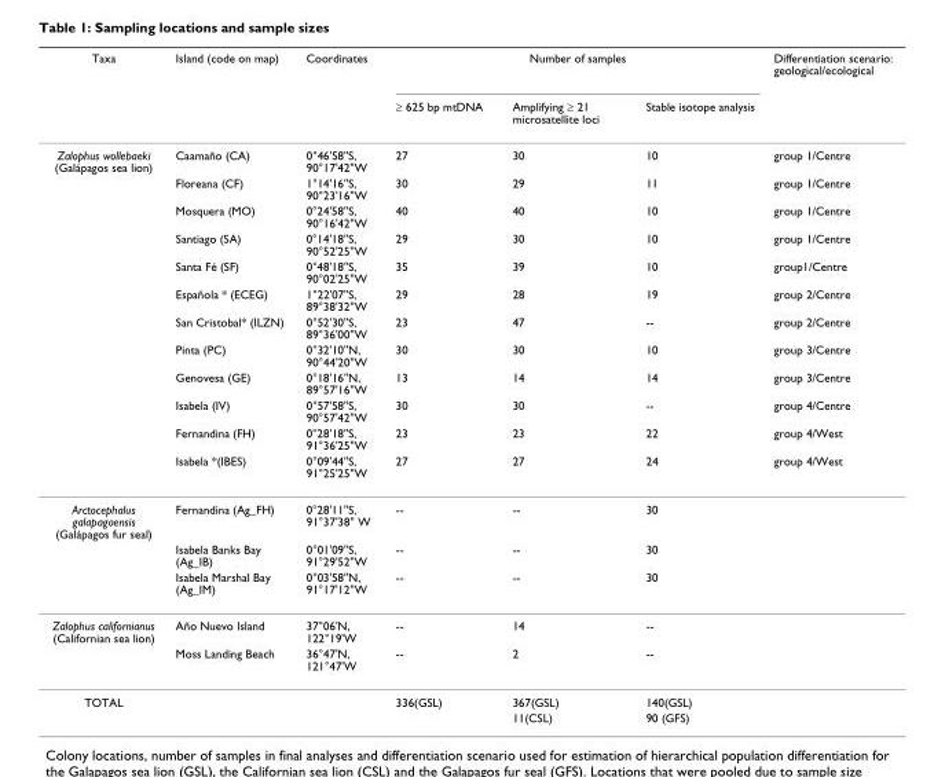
<table><thead><tr><td rowspan="2">Taxa</td><td rowspan="2">Island (code on map)</td><td rowspan="2">Coordinates</td><td colspan="3">Number of samples</td><td rowspan="2">Differentiation scenario: geological/ecological</td></tr><tr><td>≥ 625 bp mtDNA</td><td>Amplifying ≥ 21 microsatellite loci</td><td>Stable isotope analysis</td></tr></thead><tbody><tr><td rowspan="12">Zalophus wollebaeki (Galápagos sea lion)</td><td>Caamaño (CA)</td><td>0°46&#x27;58&#x27;&#x27;S, 90°17&#x27;42&#x27;&#x27;W</td><td>27</td><td>30</td><td>10</td><td>group 1/Centre</td></tr><tr><td>Floreana (CF)</td><td>1°14&#x27;16&#x27;&#x27;S, 90°23&#x27;16&#x27;&#x27;W</td><td>30</td><td>29</td><td>11</td><td>group 1/Centre</td></tr><tr><td>Mosquera (MO)</td><td>0°24&#x27;58&#x27;&#x27;S, 90°16&#x27;42&#x27;&#x27;W</td><td>40</td><td>40</td><td>10</td><td>group 1/Centre</td></tr><tr><td>Santiago (SA)</td><td>0°14&#x27;18&#x27;&#x27;S, 90°52&#x27;25&#x27;&#x27;W</td><td>29</td><td>30</td><td>10</td><td>group 1/Centre</td></tr><tr><td>Santa Fé (SF)</td><td>0°48&#x27;18&#x27;&#x27;S, 90°02&#x27;25&#x27;&#x27;W</td><td>35</td><td>39</td><td>10</td><td>group1/Centre</td></tr><tr><td>Española * (ECEG)</td><td>1°22&#x27;07&#x27;&#x27;S, 89°38&#x27;32&#x27;&#x27;W</td><td>29</td><td>28</td><td>19</td><td>group 2/Centre</td></tr><tr><td>San Cristobal* (ILZN)</td><td>0°52&#x27;30&#x27;&#x27;S, 89°36&#x27;00&#x27;&#x27;W</td><td>23</td><td>47</td><td>--</td><td>group 2/Centre</td></tr><tr><td>Pinta (PC)</td><td>0°32&#x27;10&#x27;&#x27;N, 90°44&#x27;20&#x27;&#x27;W</td><td>30</td><td>30</td><td>10</td><td>group 3/Centre</td></tr><tr><td>Genovesa (GE)</td><td>0°18&#x27;16&#x27;&#x27;N, 89°57&#x27;16&#x27;&#x27;W</td><td>13</td><td>14</td><td>14</td><td>group 3/Centre</td></tr><tr><td>Isabela (IV)</td><td>0°57&#x27;58&#x27;&#x27;S, 90°57&#x27;42&#x27;&#x27;W</td><td>30</td><td>30</td><td>--</td><td>group 4/Centre</td></tr><tr><td>Fernandina (FH)</td><td>0°28&#x27;18&#x27;&#x27;S, 91°36&#x27;25&#x27;&#x27;W</td><td>23</td><td>23</td><td>22</td><td>group 4/West</td></tr><tr><td>Isabela *(IBES)</td><td>0°09&#x27;44&#x27;&#x27;S, 91°25&#x27;25&#x27;&#x27;W</td><td>27</td><td>27</td><td>24</td><td>group 4/West</td></tr><tr><td rowspan="3">Arctocephalus galapagoensis (Galápagos fur seal)</td><td>Fernandina (Ag_FH)</td><td>0°28&#x27;11&#x27;&#x27;S, 91°37&#x27;38&#x27;&#x27; W</td><td>--</td><td>--</td><td>30</td><td></td></tr><tr><td>Isabela Banks Bay (Ag_IB)</td><td>0°01&#x27;09&#x27;&#x27;S, 91°29&#x27;52&#x27;&#x27;W</td><td>--</td><td>--</td><td>30</td><td></td></tr><tr><td>Isabela Marshal Bay (Ag_IM)</td><td>0°03&#x27;58&#x27;&#x27;N, 91°17&#x27;12&#x27;&#x27;W</td><td>--</td><td>--</td><td>30</td><td></td></tr><tr><td rowspan="2">Zalophus californianus (Californian sea lion)</td><td>Año Nuevo Island</td><td>37°06&#x27;N, 122°19&#x27;W</td><td>--</td><td>14</td><td>--</td><td></td></tr><tr><td>Moss Landing Beach</td><td>36°47&#x27;N, 121°47&#x27;W</td><td>--</td><td>2</td><td>--</td><td></td></tr><tr><td rowspan="2">TOTAL</td><td></td><td></td><td>336(GSL)</td><td>367(GSL)</td><td>140(GSL)</td><td></td></tr><tr><td></td><td></td><td></td><td>11(CSL)</td><td>90 (GFS)</td><td></td></tr></tbody></table>